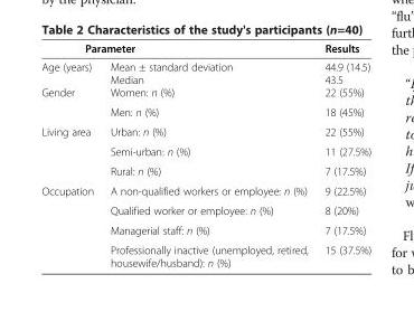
<table><thead><tr><td colspan="2">Parameter</td><td rowspan="3">Results 44.9 (14.5) 43.5</td></tr><tr><td rowspan="2">Age (years)</td><td rowspan="2">Mean ± standard deviation Median</td></tr><tr></tr></thead><tbody><tr><td rowspan="2">Gender</td><td>Women: n (%)</td><td>22 (55%)</td></tr><tr><td>Men: n (%)</td><td>18 (45%)</td></tr><tr><td rowspan="3">Living area</td><td>Urban: n (%)</td><td>22 (55%)</td></tr><tr><td>Semi-urban: n (%)</td><td>11 (27.5%)</td></tr><tr><td>Rural: n (%)</td><td>7 (17.5%)</td></tr><tr><td rowspan="4">Occupation</td><td>A non-qualified workers or employee: n (%)</td><td>9 (22.5%)</td></tr><tr><td>Qualified worker or employee: n (%)</td><td>8 (20%)</td></tr><tr><td>Managerial staff: n (%)</td><td>7 (17.5%)</td></tr><tr><td>Professionally inactive (unemployed, retired, housewife/husband): n (%)</td><td>15 (37.5%)</td></tr></tbody></table>